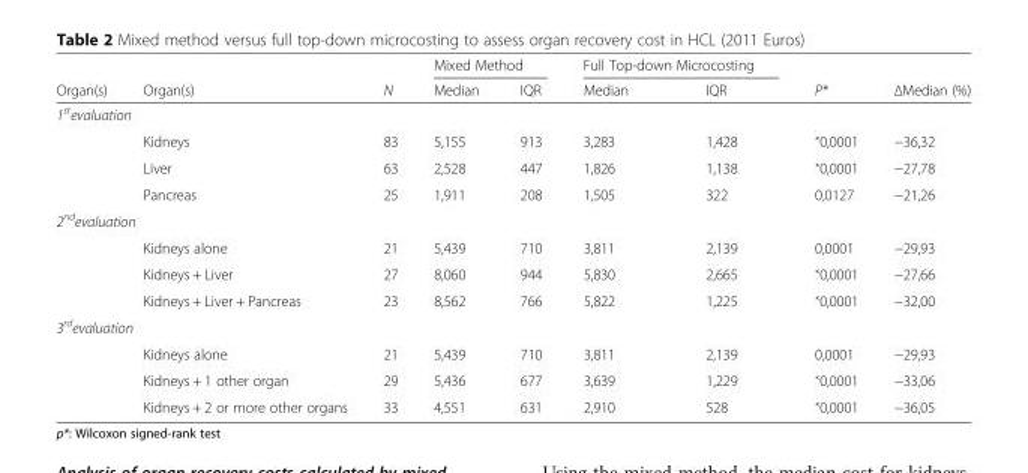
<table><thead><tr><td rowspan="2">Organ(s)</td><td rowspan="2">Organ(s)</td><td rowspan="2">N</td><td colspan="2">Mixed Method</td><td colspan="2">Full Top-down Microcosting</td><td rowspan="2">P*</td><td rowspan="2">ΔMedian (%)</td></tr><tr><td>Median</td><td>IQR</td><td>Median</td><td>IQR</td></tr></thead><tbody><tr><td colspan="9">1<sup>st</sup>evaluation</td></tr><tr><td rowspan="3"></td><td>Kidneys</td><td>83</td><td>5,155</td><td>913</td><td>3,283</td><td>1,428</td><td>˂0,0001</td><td>−36,32</td></tr><tr><td>Liver</td><td>63</td><td>2,528</td><td>447</td><td>1,826</td><td>1,138</td><td>˂0,0001</td><td>−27,78</td></tr><tr><td>Pancreas</td><td>25</td><td>1,911</td><td>208</td><td>1,505</td><td>322</td><td>0,0127</td><td>−21,26</td></tr><tr><td colspan="9">2<sup>nd</sup>evaluation</td></tr><tr><td rowspan="3"></td><td>Kidneys alone</td><td>21</td><td>5,439</td><td>710</td><td>3,811</td><td>2,139</td><td>0,0001</td><td>−29,93</td></tr><tr><td>Kidneys + Liver</td><td>27</td><td>8,060</td><td>944</td><td>5,830</td><td>2,665</td><td>˂0,0001</td><td>−27,66</td></tr><tr><td>Kidneys + Liver + Pancreas</td><td>23</td><td>8,562</td><td>766</td><td>5,822</td><td>1,225</td><td>˂0,0001</td><td>−32,00</td></tr><tr><td colspan="9">3<sup>rd</sup>evaluation</td></tr><tr><td rowspan="3"></td><td>Kidneys alone</td><td>21</td><td>5,439</td><td>710</td><td>3,811</td><td>2,139</td><td>0,0001</td><td>−29,93</td></tr><tr><td>Kidneys + 1 other organ</td><td>29</td><td>5,436</td><td>677</td><td>3,639</td><td>1,229</td><td>˂0,0001</td><td>−33,06</td></tr><tr><td>Kidneys + 2 or more other organs</td><td>33</td><td>4,551</td><td>631</td><td>2,910</td><td>528</td><td>˂0,0001</td><td>−36,05</td></tr></tbody></table>